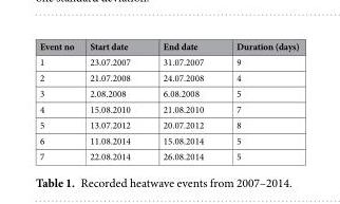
<table><thead><tr><td>Event no</td><td>Start date</td><td>End date</td><td>Duration (days)</td></tr></thead><tbody><tr><td>1</td><td>23.07.2007</td><td>31.07.2007</td><td>9</td></tr><tr><td>2</td><td>21.07.2008</td><td>24.07.2008</td><td>4</td></tr><tr><td>3</td><td>2.08.2008</td><td>6.08.2008</td><td>5</td></tr><tr><td>4</td><td>15.08.2010</td><td>21.08.2010</td><td>7</td></tr><tr><td>5</td><td>13.07.2012</td><td>20.07.2012</td><td>8</td></tr><tr><td>6</td><td>11.08.2014</td><td>15.08.2014</td><td>5</td></tr><tr><td>7</td><td>22.08.2014</td><td>26.08.2014</td><td>5</td></tr></tbody></table>